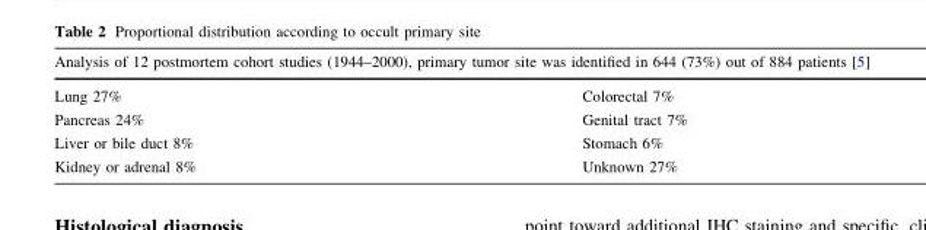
<table><thead><tr><td colspan="2">Analysis of 12 postmortem cohort studies (1944–2000), primary tumor site was identified in 644 (73%) out of 884 patients [5]</td></tr><tr><td>Lung 27%</td><td>Colorectal 7%</td></tr></thead><tbody><tr><td>Pancreas 24%</td><td>Genital tract 7%</td></tr><tr><td>Liver or bile duct 8%</td><td>Stomach 6%</td></tr><tr><td>Kidney or adrenal 8%</td><td>Unknown 27%</td></tr></tbody></table>